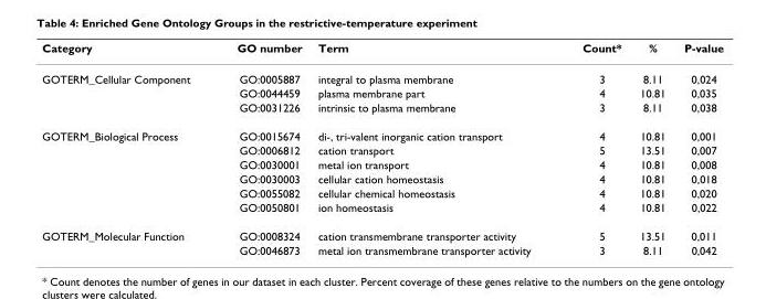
<table><thead><tr><td>Category</td><td>GO number</td><td>Term</td><td>Count*</td><td>%</td><td>P-value</td></tr></thead><tbody><tr><td rowspan="3">GOTERM_Cellular Component</td><td>GO:0005887</td><td>integral to plasma membrane</td><td>3</td><td>8.11</td><td>0,024</td></tr><tr><td>GO:0044459</td><td>plasma membrane part</td><td>4</td><td>10.81</td><td>0,035</td></tr><tr><td>GO:0031226</td><td>intrinsic to plasma membrane</td><td>3</td><td>8.11</td><td>0,038</td></tr><tr><td rowspan="6">GOTERM_Biological Process</td><td>GO:0015674</td><td>di-, tri-valent inorganic cation transport</td><td>4</td><td>10.81</td><td>0,001</td></tr><tr><td>GO:0006812</td><td>cation transport</td><td>5</td><td>13.51</td><td>0,007</td></tr><tr><td>GO:0030001</td><td>metal ion transport</td><td>4</td><td>10.81</td><td>0,008</td></tr><tr><td>GO:0030003</td><td>cellular cation homeostasis</td><td>4</td><td>10.81</td><td>0,018</td></tr><tr><td>GO:0055082</td><td>cellular chemical homeostasis</td><td>4</td><td>10.81</td><td>0,020</td></tr><tr><td>GO:0050801</td><td>ion homeostasis</td><td>4</td><td>10.81</td><td>0,022</td></tr><tr><td rowspan="2">GOTERM_Molecular Function</td><td>GO:0008324</td><td>cation transmembrane transporter activity</td><td>5</td><td>13.51</td><td>0,011</td></tr><tr><td>GO:0046873</td><td>metal ion transmembrane transporter activity</td><td>3</td><td>8.11</td><td>0,042</td></tr></tbody></table>